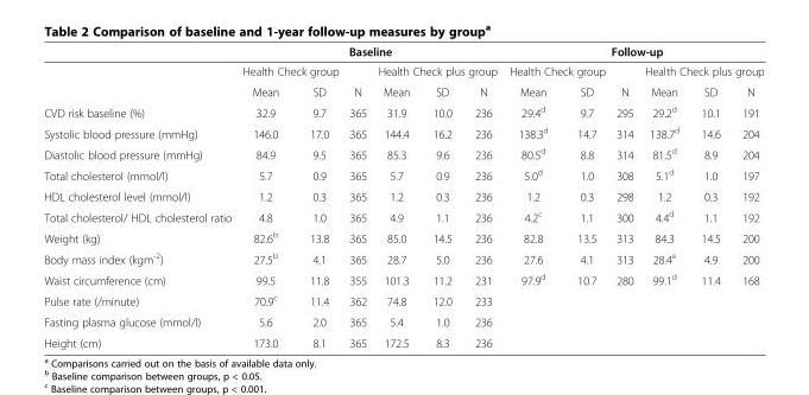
<table><thead><tr><td rowspan="3"></td><td colspan="6">Baseline</td><td colspan="6">Follow-up</td></tr><tr><td colspan="2">Health Check group</td><td rowspan="2">N</td><td colspan="3">Health Check plus group</td><td colspan="2">Health Check group</td><td rowspan="2">N</td><td colspan="3">Health Check plus group</td></tr><tr><td>Mean</td><td>SD</td><td>Mean</td><td>SD</td><td>N</td><td>Mean</td><td>SD</td><td>Mean</td><td>SD</td><td>N</td></tr></thead><tbody><tr><td>CVD risk baseline (%)</td><td>32.9</td><td>9.7</td><td>365</td><td>31.9</td><td>10.0</td><td>236</td><td>29.4<sup>d</sup></td><td>9.7</td><td>295</td><td>29.2<sup>d</sup></td><td>10.1</td><td>191</td></tr><tr><td>Systolic blood pressure (mmHg)</td><td>146.0</td><td>17.0</td><td>365</td><td>144.4</td><td>16.2</td><td>236</td><td>138.3<sup>d</sup></td><td>14.7</td><td>314</td><td>138.7<sup>d</sup></td><td>14.6</td><td>204</td></tr><tr><td>Diastolic blood pressure (mmHg)</td><td>84.9</td><td>9.5</td><td>365</td><td>85.3</td><td>9.6</td><td>236</td><td>80.5<sup>d</sup></td><td>8.8</td><td>314</td><td>81.5<sup>d</sup></td><td>8.9</td><td>204</td></tr><tr><td>Total cholesterol (mmol/l)</td><td>5.7</td><td>0.9</td><td>365</td><td>5.7</td><td>0.9</td><td>236</td><td>5.0<sup>d</sup></td><td>1.0</td><td>308</td><td>5.1<sup>d</sup></td><td>1.0</td><td>197</td></tr><tr><td>HDL cholesterol level (mmol/l)</td><td>1.2</td><td>0.3</td><td>365</td><td>1.2</td><td>0.3</td><td>236</td><td>1.2</td><td>0.3</td><td>298</td><td>1.2</td><td>0.3</td><td>192</td></tr><tr><td>Total cholesterol/ HDL cholesterol ratio</td><td>4.8</td><td>1.0</td><td>365</td><td>4.9</td><td>1.1</td><td>236</td><td>4.2<sup>c</sup></td><td>1.1</td><td>300</td><td>4.4<sup>d</sup></td><td>1.1</td><td>192</td></tr><tr><td>Weight (kg)</td><td>82.6<sup>b</sup></td><td>13.8</td><td>365</td><td>85.0</td><td>14.5</td><td>236</td><td>82.8</td><td>13.5</td><td>313</td><td>84.3</td><td>14.5</td><td>200</td></tr><tr><td>Body mass index (kgm<sup>-2</sup>)</td><td>27.5<sup>b</sup></td><td>4.1</td><td>365</td><td>28.7</td><td>5.0</td><td>236</td><td>27.6</td><td>4.1</td><td>313</td><td>28.4<sup>e</sup></td><td>4.9</td><td>200</td></tr><tr><td>Waist circumference (cm)</td><td>99.5</td><td>11.8</td><td>355</td><td>101.3</td><td>11.2</td><td>231</td><td>97.9<sup>d</sup></td><td>10.7</td><td>280</td><td>99.1<sup>d</sup></td><td>11.4</td><td>168</td></tr><tr><td>Pulse rate (/minute)</td><td>70.9<sup>c</sup></td><td>11.4</td><td>362</td><td>74.8</td><td>12.0</td><td>233</td><td></td><td></td><td></td><td></td><td></td><td></td></tr><tr><td>Fasting plasma glucose (mmol/l)</td><td>5.6</td><td>2.0</td><td>365</td><td>5.4</td><td>1.0</td><td>236</td><td></td><td></td><td></td><td></td><td></td><td></td></tr><tr><td>Height (cm)</td><td>173.0</td><td>8.1</td><td>365</td><td>172.5</td><td>8.3</td><td>236</td><td></td><td></td><td></td><td></td><td></td><td></td></tr></tbody></table>